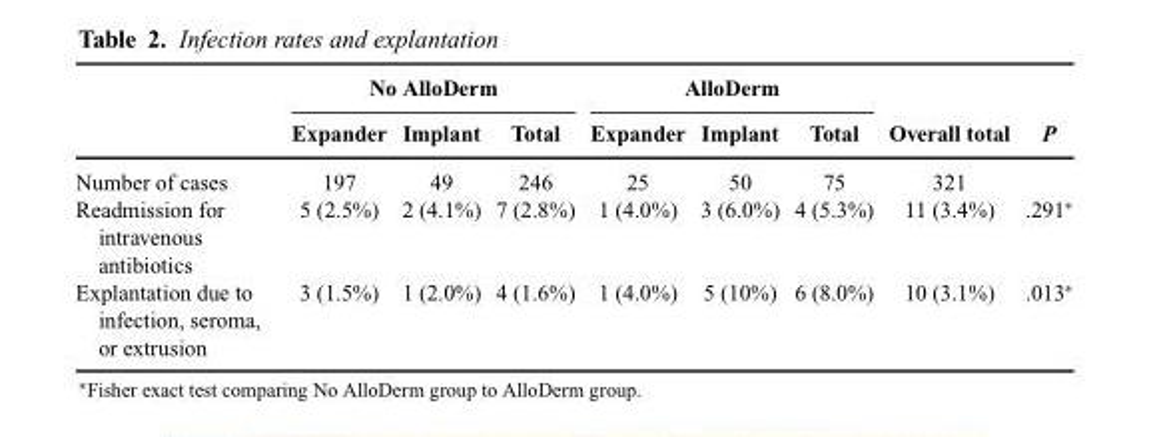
<table><thead><tr><td rowspan="2"></td><td colspan="3">No AlloDerm</td><td colspan="3">AlloDerm</td><td rowspan="2">Overall total</td><td rowspan="2">P</td></tr><tr><td>Expander</td><td>Implant</td><td>Total</td><td>Expander</td><td>Implant</td><td>Total</td></tr></thead><tbody><tr><td>Number of cases</td><td>197</td><td>49</td><td>246</td><td>25</td><td>50</td><td>75</td><td>321</td><td></td></tr><tr><td>Readmission for intravenous antibiotics</td><td>5 (2.5%)</td><td>2 (4.1%)</td><td>7 (2.8%)</td><td>1 (4.0%)</td><td>3 (6.0%)</td><td>4 (5.3%)</td><td>11 (3.4%)</td><td>.291∗</td></tr><tr><td>Explantation due to infection, seroma, or extrusion</td><td>3 (1.5%)</td><td>1 (2.0%)</td><td>4 (1.6%)</td><td>1 (4.0%)</td><td>5 (10%)</td><td>6 (8.0%)</td><td>10 (3.1%)</td><td>.013∗</td></tr></tbody></table>